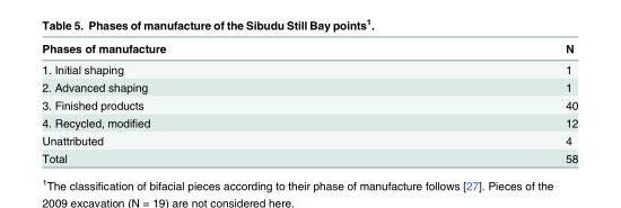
<table><thead><tr><td>Phases of manufacture</td><td>N</td></tr></thead><tbody><tr><td>1. Initial shaping</td><td>1</td></tr><tr><td>2. Advanced shaping</td><td>1</td></tr><tr><td>3. Finished products</td><td>40</td></tr><tr><td>4. Recycled, modified</td><td>12</td></tr><tr><td>Unattributed</td><td>4</td></tr><tr><td>Total</td><td>58</td></tr></tbody></table>